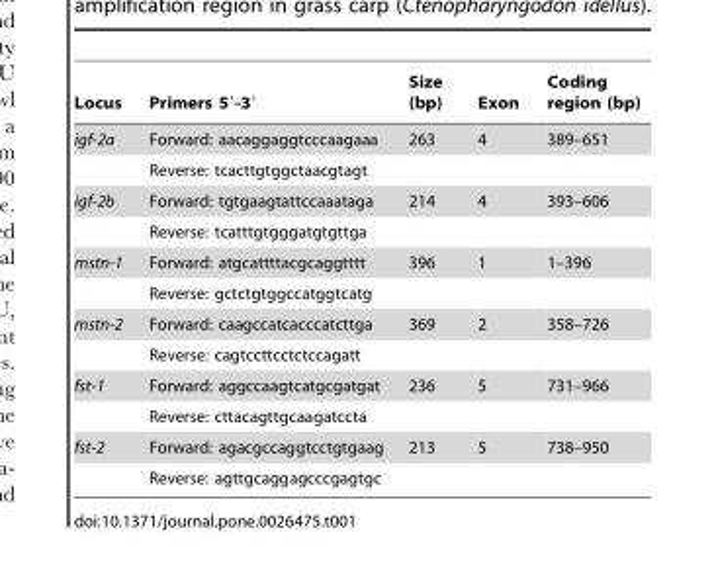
<table><thead><tr><td>Locus</td><td>Primers 5′-3′</td><td>Size (bp)</td><td>Exon</td><td>Coding region (bp)</td></tr></thead><tbody><tr><td rowspan="2">igf-2a</td><td>Forward: aacaggaggtcccaagaaa</td><td>263</td><td>4</td><td>389–651</td></tr><tr><td>Reverse: tcacttgtggctaacgtagt</td><td></td><td></td><td></td></tr><tr><td rowspan="2">igf-2b</td><td>Forward: tgtgaagtattccaaataga</td><td>214</td><td>4</td><td>393–606</td></tr><tr><td>Reverse: tcatttgtgggatgtgttga</td><td></td><td></td><td></td></tr><tr><td rowspan="2">mstn-1</td><td>Forward: atgcattttacgcaggtttt</td><td>396</td><td>1</td><td>1–396</td></tr><tr><td>Reverse: gctctgtggccatggtcatg</td><td></td><td></td><td></td></tr><tr><td rowspan="2">mstn-2</td><td>Forward: caagccatcacccatcttga</td><td>369</td><td>2</td><td>358–726</td></tr><tr><td>Reverse: cagtccttcctctccagatt</td><td></td><td></td><td></td></tr><tr><td rowspan="2">fst-1</td><td>Forward: aggccaagtcatgcgatgat</td><td>236</td><td>5</td><td>731–966</td></tr><tr><td>Reverse: cttacagttgcaagatccta</td><td></td><td></td><td></td></tr><tr><td rowspan="2">fst-2</td><td>Forward: agacgccaggtcctgtgaag</td><td>213</td><td>5</td><td>738–950</td></tr><tr><td>Reverse: agttgcaggagcccgagtgc</td><td></td><td></td><td></td></tr></tbody></table>